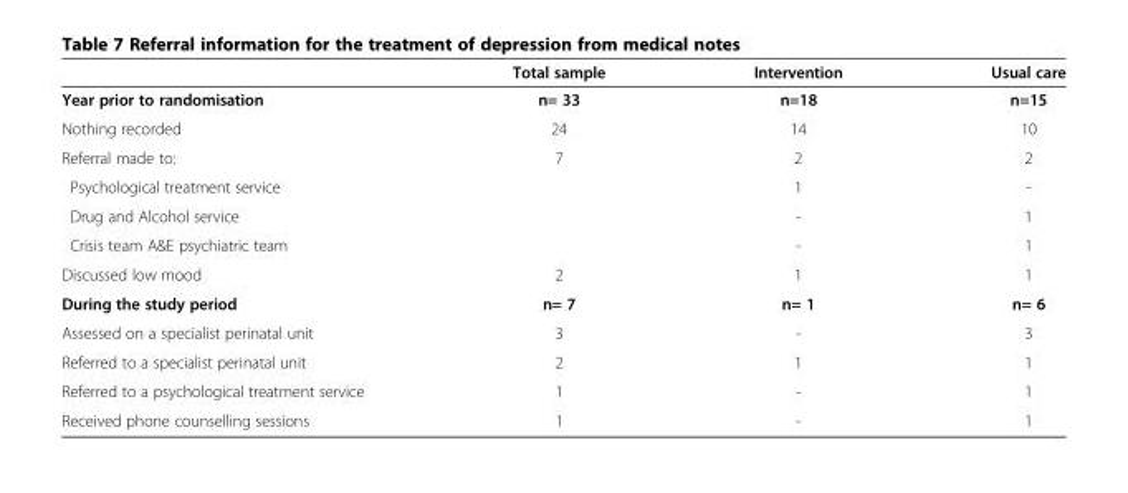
<table><thead><tr><td></td><td>Total sample</td><td>Intervention</td><td>Usual care</td></tr></thead><tbody><tr><td>Year prior to randomisation</td><td>n= 33</td><td>n=18</td><td>n=15</td></tr><tr><td>Nothing recorded</td><td>24</td><td>14</td><td>10</td></tr><tr><td>Referral made to:</td><td>7</td><td>2</td><td>2</td></tr><tr><td>Psychological treatment service</td><td></td><td>1</td><td>-</td></tr><tr><td>Drug and Alcohol service</td><td></td><td>-</td><td>1</td></tr><tr><td>Crisis team A&amp;E psychiatric team</td><td></td><td>-</td><td>1</td></tr><tr><td>Discussed low mood</td><td>2</td><td>1</td><td>1</td></tr><tr><td>During the study period</td><td>n= 7</td><td>n= 1</td><td>n= 6</td></tr><tr><td>Assessed on a specialist perinatal unit</td><td>3</td><td>-</td><td>3</td></tr><tr><td>Referred to a specialist perinatal unit</td><td>2</td><td>1</td><td>1</td></tr><tr><td>Referred to a psychological treatment service</td><td>1</td><td>-</td><td>1</td></tr><tr><td>Received phone counselling sessions</td><td>1</td><td>-</td><td>1</td></tr></tbody></table>